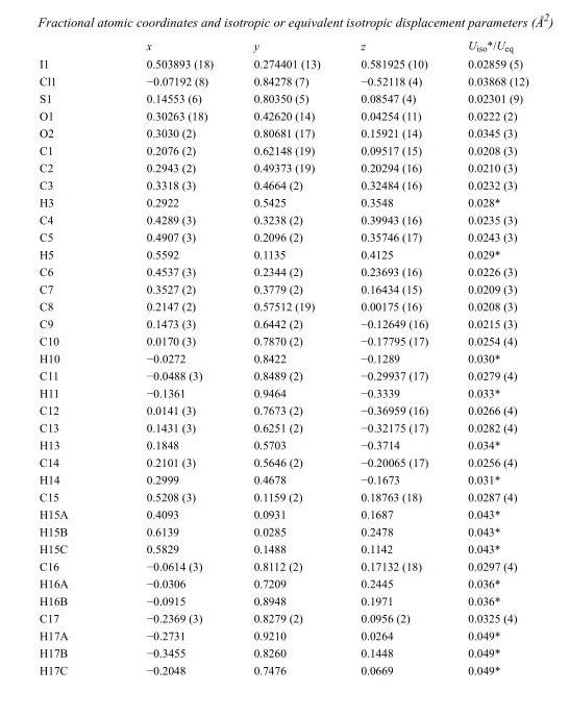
<table><thead><tr><td></td><td>x</td><td>y</td><td>z</td><td>U<sub>iso</sub>*/U<sub>eq</sub></td></tr></thead><tbody><tr><td>I1</td><td>0.503893 (18)</td><td>0.274401 (13)</td><td>0.581925 (10)</td><td>0.02859 (5)</td></tr><tr><td>Cl1</td><td>−0.07192 (8)</td><td>0.84278 (7)</td><td>−0.52118 (4)</td><td>0.03868 (12)</td></tr><tr><td>S1</td><td>0.14553 (6)</td><td>0.80350 (5)</td><td>0.08547 (4)</td><td>0.02301 (9)</td></tr><tr><td>O1</td><td>0.30263 (18)</td><td>0.42620 (14)</td><td>0.04254 (11)</td><td>0.0222 (2)</td></tr><tr><td>O2</td><td>0.3030 (2)</td><td>0.80681 (17)</td><td>0.15921 (14)</td><td>0.0345 (3)</td></tr><tr><td>C1</td><td>0.2076 (2)</td><td>0.62148 (19)</td><td>0.09517 (15)</td><td>0.0208 (3)</td></tr><tr><td>C2</td><td>0.2943 (2)</td><td>0.49373 (19)</td><td>0.20294 (16)</td><td>0.0210 (3)</td></tr><tr><td>C3</td><td>0.3318 (3)</td><td>0.4664 (2)</td><td>0.32484 (16)</td><td>0.0232 (3)</td></tr><tr><td>H3</td><td>0.2922</td><td>0.5425</td><td>0.3548</td><td>0.028*</td></tr><tr><td>C4</td><td>0.4289 (3)</td><td>0.3238 (2)</td><td>0.39943 (16)</td><td>0.0235 (3)</td></tr><tr><td>C5</td><td>0.4907 (3)</td><td>0.2096 (2)</td><td>0.35746 (17)</td><td>0.0243 (3)</td></tr><tr><td>H5</td><td>0.5592</td><td>0.1135</td><td>0.4125</td><td>0.029*</td></tr><tr><td>C6</td><td>0.4537 (3)</td><td>0.2344 (2)</td><td>0.23693 (16)</td><td>0.0226 (3)</td></tr><tr><td>C7</td><td>0.3527 (2)</td><td>0.3779 (2)</td><td>0.16434 (15)</td><td>0.0209 (3)</td></tr><tr><td>C8</td><td>0.2147 (2)</td><td>0.57512 (19)</td><td>0.00175 (16)</td><td>0.0208 (3)</td></tr><tr><td>C9</td><td>0.1473 (3)</td><td>0.6442 (2)</td><td>−0.12649 (16)</td><td>0.0215 (3)</td></tr><tr><td>C10</td><td>0.0170 (3)</td><td>0.7870 (2)</td><td>−0.17795 (17)</td><td>0.0254 (4)</td></tr><tr><td>H10</td><td>−0.0272</td><td>0.8422</td><td>−0.1289</td><td>0.030*</td></tr><tr><td>C11</td><td>−0.0488 (3)</td><td>0.8489 (2)</td><td>−0.29937 (17)</td><td>0.0279 (4)</td></tr><tr><td>H11</td><td>−0.1361</td><td>0.9464</td><td>−0.3339</td><td>0.033*</td></tr><tr><td>C12</td><td>0.0141 (3)</td><td>0.7673 (2)</td><td>−0.36959 (16)</td><td>0.0266 (4)</td></tr><tr><td>C13</td><td>0.1431 (3)</td><td>0.6251 (2)</td><td>−0.32175 (17)</td><td>0.0282 (4)</td></tr><tr><td>H13</td><td>0.1848</td><td>0.5703</td><td>−0.3714</td><td>0.034*</td></tr><tr><td>C14</td><td>0.2101 (3)</td><td>0.5646 (2)</td><td>−0.20065 (17)</td><td>0.0256 (4)</td></tr><tr><td>H14</td><td>0.2999</td><td>0.4678</td><td>−0.1673</td><td>0.031*</td></tr><tr><td>C15</td><td>0.5208 (3)</td><td>0.1159 (2)</td><td>0.18763 (18)</td><td>0.0287 (4)</td></tr><tr><td>H15A</td><td>0.4093</td><td>0.0931</td><td>0.1687</td><td>0.043*</td></tr><tr><td>H15B</td><td>0.6139</td><td>0.0285</td><td>0.2478</td><td>0.043*</td></tr><tr><td>H15C</td><td>0.5829</td><td>0.1488</td><td>0.1142</td><td>0.043*</td></tr><tr><td>C16</td><td>−0.0614 (3)</td><td>0.8112 (2)</td><td>0.17132 (18)</td><td>0.0297 (4)</td></tr><tr><td>H16A</td><td>−0.0306</td><td>0.7209</td><td>0.2445</td><td>0.036*</td></tr><tr><td>H16B</td><td>−0.0915</td><td>0.8948</td><td>0.1971</td><td>0.036*</td></tr><tr><td>C17</td><td>−0.2369 (3)</td><td>0.8279 (2)</td><td>0.0956 (2)</td><td>0.0325 (4)</td></tr><tr><td>H17A</td><td>−0.2731</td><td>0.9210</td><td>0.0264</td><td>0.049*</td></tr><tr><td>H17B</td><td>−0.3455</td><td>0.8260</td><td>0.1448</td><td>0.049*</td></tr><tr><td>H17C</td><td>−0.2048</td><td>0.7476</td><td>0.0669</td><td>0.049*</td></tr></tbody></table>